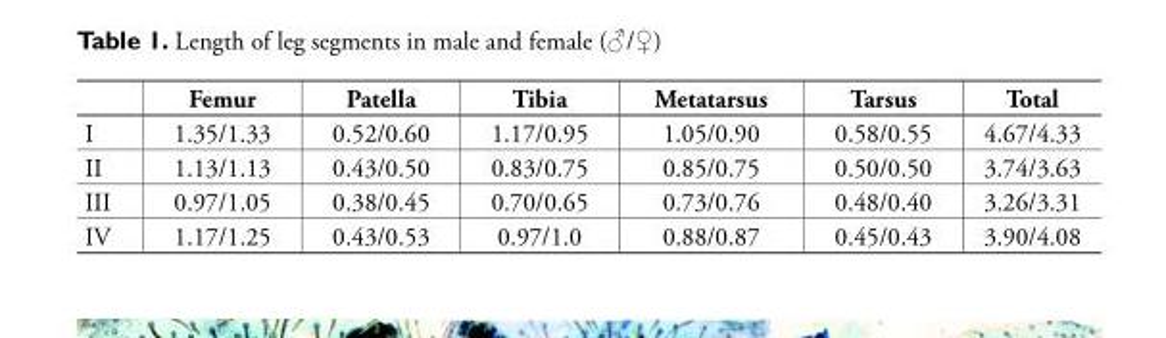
<table><thead><tr><td></td><td>Femur</td><td>Patella</td><td>Tibia</td><td>Metatarsus</td><td>Tarsus</td><td>Total</td></tr></thead><tbody><tr><td>I</td><td>1.35/1.33</td><td>0.52/0.60</td><td>1.17/0.95</td><td>1.05/0.90</td><td>0.58/0.55</td><td>4.67/4.33</td></tr><tr><td>II</td><td>1.13/1.13</td><td>0.43/0.50</td><td>0.83/0.75</td><td>0.85/0.75</td><td>0.50/0.50</td><td>3.74/3.63</td></tr><tr><td>III</td><td>0.97/1.05</td><td>0.38/0.45</td><td>0.70/0.65</td><td>0.73/0.76</td><td>0.48/0.40</td><td>3.26/3.31</td></tr><tr><td>IV</td><td>1.17/1.25</td><td>0.43/0.53</td><td>0.97/1.0</td><td>0.88/0.87</td><td>0.45/0.43</td><td>3.90/4.08</td></tr></tbody></table>